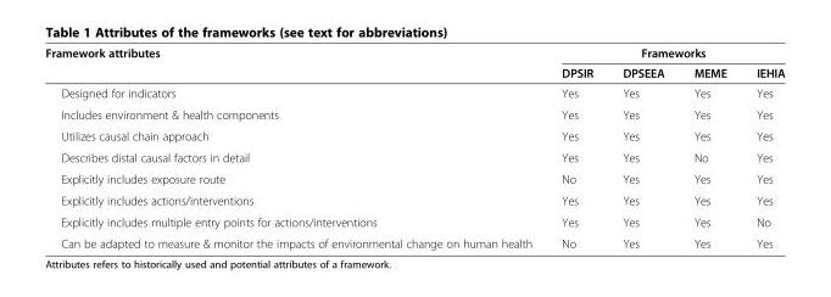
<table><thead><tr><td rowspan="2">Framework attributes</td><td colspan="4">Frameworks</td></tr><tr><td>DPSIR</td><td>DPSEEA</td><td>MEME</td><td>IEHIA</td></tr></thead><tbody><tr><td>Designed for indicators</td><td>Yes</td><td>Yes</td><td>Yes</td><td>Yes</td></tr><tr><td>Includes environment &amp; health components</td><td>Yes</td><td>Yes</td><td>Yes</td><td>Yes</td></tr><tr><td>Utilizes causal chain approach</td><td>Yes</td><td>Yes</td><td>Yes</td><td>Yes</td></tr><tr><td>Describes distal causal factors in detail</td><td>Yes</td><td>Yes</td><td>No</td><td>Yes</td></tr><tr><td>Explicitly includes exposure route</td><td>No</td><td>Yes</td><td>Yes</td><td>Yes</td></tr><tr><td>Explicitly includes actions/interventions</td><td>Yes</td><td>Yes</td><td>Yes</td><td>Yes</td></tr><tr><td>Explicitly includes multiple entry points for actions/interventions</td><td>Yes</td><td>Yes</td><td>Yes</td><td>No</td></tr><tr><td>Can be adapted to measure &amp; monitor the impacts of environmental change on human health</td><td>No</td><td>Yes</td><td>Yes</td><td>Yes</td></tr></tbody></table>